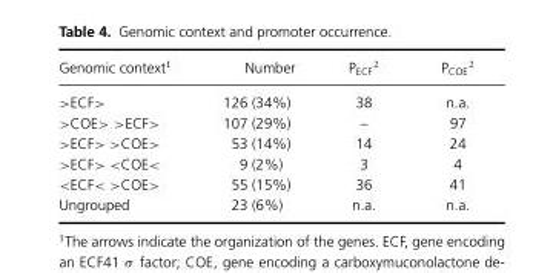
<table><thead><tr><td>Genomic context<sup>1</sup></td><td>Number</td><td>P<sub>ECF</sub><sup>2</sup></td><td>P<sub>COE</sub><sup>2</sup></td></tr></thead><tbody><tr><td>&gt;ECF&gt;</td><td>126 (34%)</td><td>38</td><td>n.a.</td></tr><tr><td>&gt;COE&gt; &gt;ECF&gt;</td><td>107 (29%)</td><td>–</td><td>97</td></tr><tr><td>&gt;ECF&gt; &gt;COE&gt;</td><td>53 (14%)</td><td>14</td><td>24</td></tr><tr><td>&gt;ECF&gt; &lt;COE&lt;</td><td>9 (2%)</td><td>3</td><td>4</td></tr><tr><td>&lt;ECF&lt; &gt;COE&gt;</td><td>55 (15%)</td><td>36</td><td>41</td></tr><tr><td>Ungrouped</td><td>23 (6%)</td><td>n.a.</td><td>n.a.</td></tr></tbody></table>